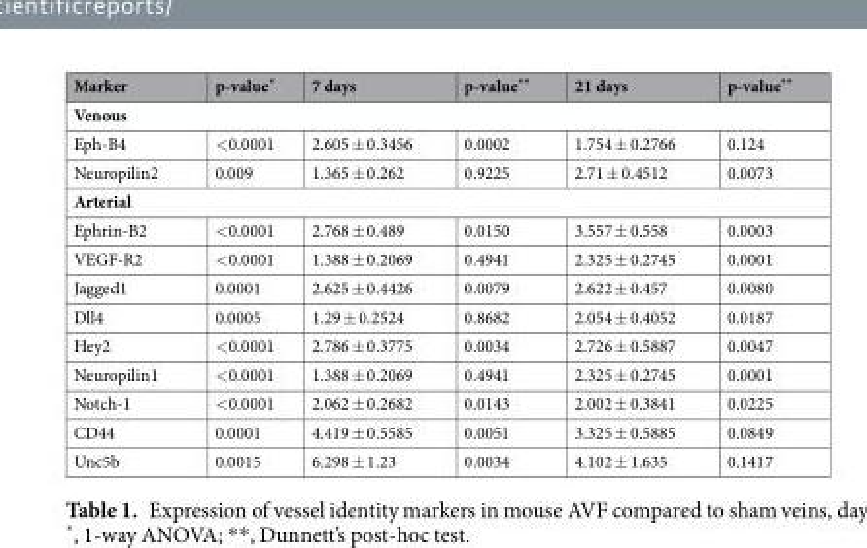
<table><thead><tr><td>Marker</td><td>p-value*</td><td>7 days</td><td>p-value**</td><td>21 days</td><td>p-value**</td></tr></thead><tbody><tr><td colspan="6">Venous</td></tr><tr><td>Eph-B4</td><td>&lt;0.0001</td><td>2.605 ± 0.3456</td><td>0.0002</td><td>1.754 ± 0.2766</td><td>0.124</td></tr><tr><td>Neuropilin2</td><td>0.009</td><td>1.365 ± 0.262</td><td>0.9225</td><td>2.71 ± 0.4512</td><td>0.0073</td></tr><tr><td colspan="6">Arterial</td></tr><tr><td>Ephrin-B2</td><td>&lt;0.0001</td><td>2.768 ± 0.489</td><td>0.0150</td><td>3.557 ± 0.558</td><td>0.0003</td></tr><tr><td>VEGF-R2</td><td>&lt;0.0001</td><td>1.388 ± 0.2069</td><td>0.4941</td><td>2.325 ± 0.2745</td><td>0.0001</td></tr><tr><td>Jagged1</td><td>0.0001</td><td>2.625 ± 0.4426</td><td>0.0079</td><td>2.622 ± 0.457</td><td>0.0080</td></tr><tr><td>Dll4</td><td>0.0005</td><td>1.29 ± 0.2524</td><td>0.8682</td><td>2.054 ± 0.4052</td><td>0.0187</td></tr><tr><td>Hey2</td><td>&lt;0.0001</td><td>2.786 ± 0.3775</td><td>0.0034</td><td>2.726 ± 0.5887</td><td>0.0047</td></tr><tr><td>Neuropilin1</td><td>&lt;0.0001</td><td>1.388 ± 0.2069</td><td>0.4941</td><td>2.325 ± 0.2745</td><td>0.0001</td></tr><tr><td>Notch-1</td><td>&lt;0.0001</td><td>2.062 ± 0.2682</td><td>0.0143</td><td>2.002 ± 0.3841</td><td>0.0225</td></tr><tr><td>CD44</td><td>0.0001</td><td>4.419 ± 0.5585</td><td>0.0051</td><td>3.325 ± 0.5885</td><td>0.0849</td></tr><tr><td>Unc5b</td><td>0.0015</td><td>6.298 ± 1.23</td><td>0.0034</td><td>4.102 ± 1.635</td><td>0.1417</td></tr></tbody></table>